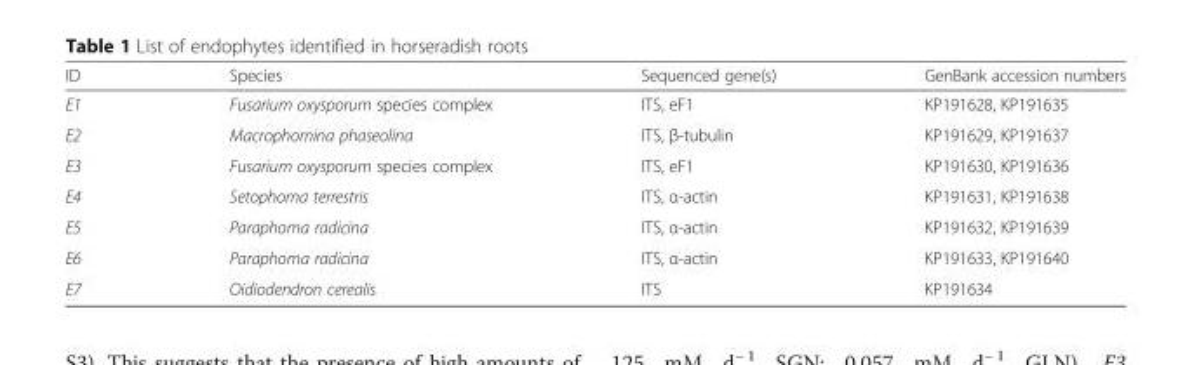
<table><thead><tr><td>ID</td><td>Species</td><td>Sequenced gene(s)</td><td>GenBank accession numbers</td></tr></thead><tbody><tr><td>E1</td><td>Fusarium oxysporum species complex</td><td>ITS, eF1</td><td>KP191628, KP191635</td></tr><tr><td>E2</td><td>Macrophomina phaseolina</td><td>ITS, β-tubulin</td><td>KP191629, KP191637</td></tr><tr><td>E3</td><td>Fusarium oxysporum species complex</td><td>ITS, eF1</td><td>KP191630, KP191636</td></tr><tr><td>E4</td><td>Setophoma terrestris</td><td>ITS, α-actin</td><td>KP191631, KP191638</td></tr><tr><td>E5</td><td>Paraphoma radicina</td><td>ITS, α-actin</td><td>KP191632, KP191639</td></tr><tr><td>E6</td><td>Paraphoma radicina</td><td>ITS, α-actin</td><td>KP191633, KP191640</td></tr><tr><td>E7</td><td>Oidiodendron cerealis</td><td>ITS</td><td>KP191634</td></tr></tbody></table>